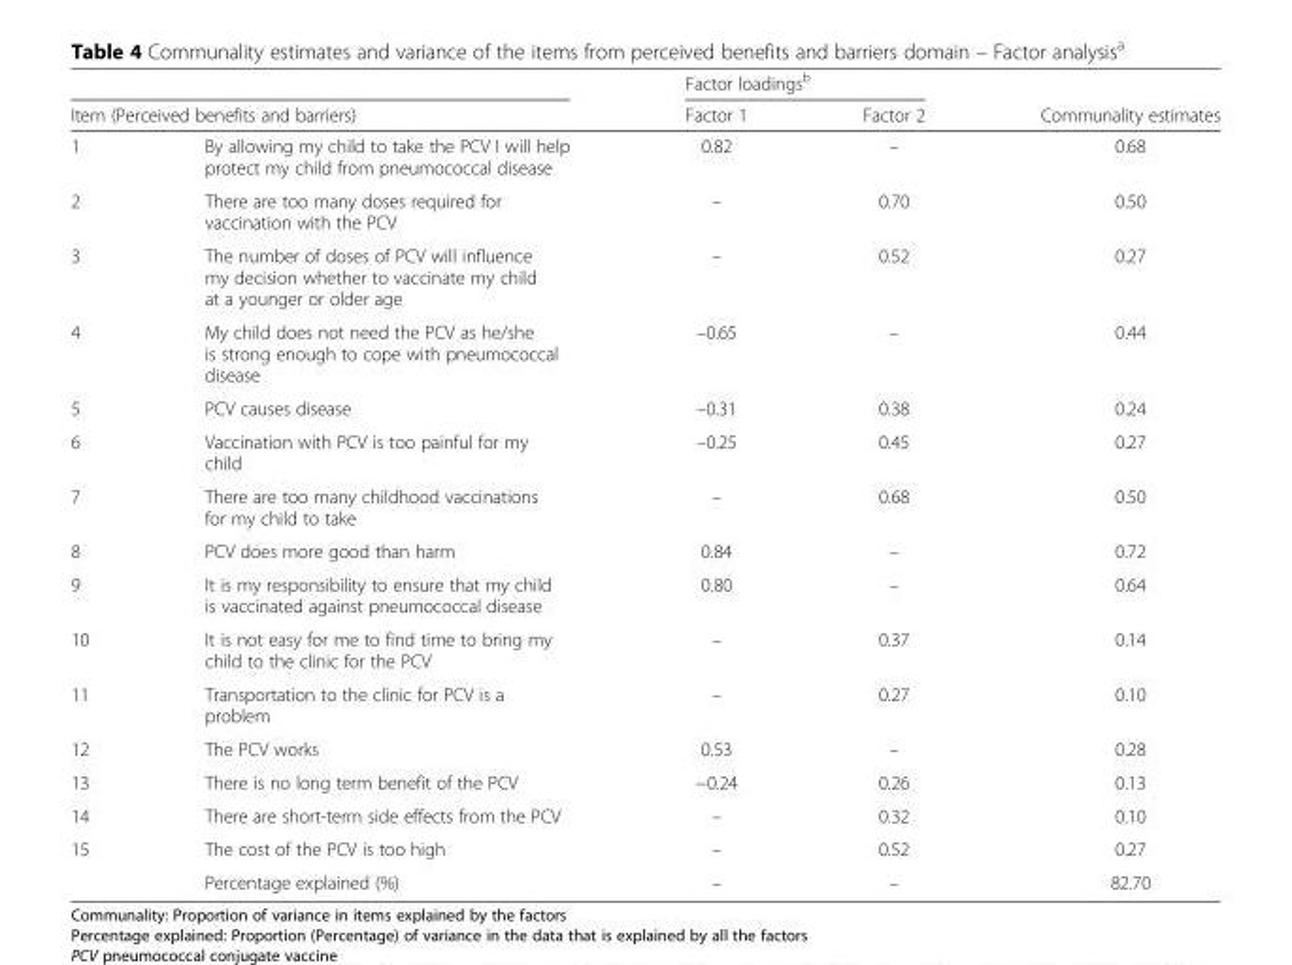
<table><thead><tr><td></td><td></td><td colspan="2">Factor loadings<sup>b</sup></td><td rowspan="2">Communality estimates</td></tr><tr><td colspan="2">Item (Perceived benefits and barriers)</td><td>Factor 1</td><td>Factor 2</td></tr></thead><tbody><tr><td>1</td><td>By allowing my child to take the PCV I will help protect my child from pneumococcal disease</td><td>0.82</td><td>–</td><td>0.68</td></tr><tr><td>2</td><td>There are too many doses required for vaccination with the PCV</td><td>–</td><td>0.70</td><td>0.50</td></tr><tr><td>3</td><td>The number of doses of PCV will influence my decision whether to vaccinate my child at a younger or older age</td><td>–</td><td>0.52</td><td>0.27</td></tr><tr><td>4</td><td>My child does not need the PCV as he/she is strong enough to cope with pneumococcal disease</td><td>–0.65</td><td>–</td><td>0.44</td></tr><tr><td>5</td><td>PCV causes disease</td><td>–0.31</td><td>0.38</td><td>0.24</td></tr><tr><td>6</td><td>Vaccination with PCV is too painful for my child</td><td>–0.25</td><td>0.45</td><td>0.27</td></tr><tr><td>7</td><td>There are too many childhood vaccinations for my child to take</td><td>–</td><td>0.68</td><td>0.50</td></tr><tr><td>8</td><td>PCV does more good than harm</td><td>0.84</td><td>–</td><td>0.72</td></tr><tr><td>9</td><td>It is my responsibility to ensure that my child is vaccinated against pneumococcal disease</td><td>0.80</td><td>–</td><td>0.64</td></tr><tr><td>10</td><td>It is not easy for me to find time to bring my child to the clinic for the PCV</td><td>–</td><td>0.37</td><td>0.14</td></tr><tr><td>11</td><td>Transportation to the clinic for PCV is a problem</td><td>–</td><td>0.27</td><td>0.10</td></tr><tr><td>12</td><td>The PCV works</td><td>0.53</td><td>–</td><td>0.28</td></tr><tr><td>13</td><td>There is no long term benefit of the PCV</td><td>−0.24</td><td>0.26</td><td>0.13</td></tr><tr><td>14</td><td>There are short-term side effects from the PCV</td><td>–</td><td>0.32</td><td>0.10</td></tr><tr><td rowspan="2">15</td><td>The cost of the PCV is too high</td><td>–</td><td>0.52</td><td>0.27</td></tr><tr><td>Percentage explained (%)</td><td>–</td><td>–</td><td>82.70</td></tr></tbody></table>